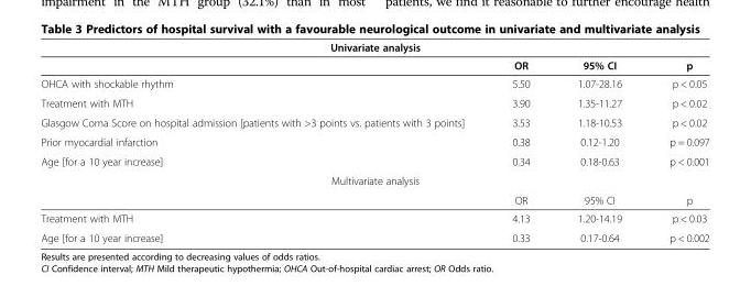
<table><thead><tr><td colspan="4">Univariate analysis</td></tr><tr><td></td><td>OR</td><td>95% CI</td><td>p</td></tr></thead><tbody><tr><td>OHCA with shockable rhythm</td><td>5.50</td><td>1.07-28.16</td><td>p &lt; 0.05</td></tr><tr><td>Treatment with MTH</td><td>3.90</td><td>1.35-11.27</td><td>p &lt; 0.02</td></tr><tr><td>Glasgow Coma Score on hospital admission [patients with &gt;3 points vs. patients with 3 points]</td><td>3.53</td><td>1.18-10.53</td><td>p &lt; 0.02</td></tr><tr><td>Prior myocardial infarction</td><td>0.38</td><td>0.12-1.20</td><td>p = 0.097</td></tr><tr><td>Age [for a 10 year increase]</td><td>0.34</td><td>0.18-0.63</td><td>p &lt; 0.001</td></tr><tr><td colspan="4">Multivariate analysis</td></tr><tr><td></td><td>OR</td><td>95% CI</td><td>p</td></tr><tr><td>Treatment with MTH</td><td>4.13</td><td>1.20-14.19</td><td>p &lt; 0.03</td></tr><tr><td>Age [for a 10 year increase]</td><td>0.33</td><td>0.17-0.64</td><td>p &lt; 0.002</td></tr></tbody></table>